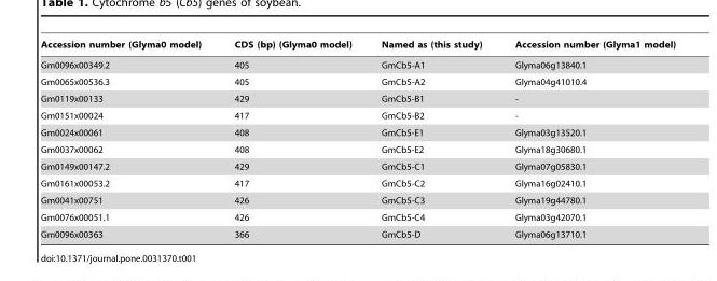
<table><thead><tr><td>Accession number (Glyma0 model)</td><td>CDS (bp) (Glyma0 model)</td><td>Named as (this study)</td><td>Accession number (Glyma1 model)</td></tr></thead><tbody><tr><td>Gm0096x00349.2</td><td>405</td><td>GmCb5-A1</td><td>Glyma06g13840.1</td></tr><tr><td>Gm0065x00536.3</td><td>405</td><td>GmCb5-A2</td><td>Glyma04g41010.4</td></tr><tr><td>Gm0119x00133</td><td>429</td><td>GmCb5-B1</td><td>-</td></tr><tr><td>Gm0151x00024</td><td>417</td><td>GmCb5-B2</td><td>-</td></tr><tr><td>Gm0024x00061</td><td>408</td><td>GmCb5-E1</td><td>Glyma03g13520.1</td></tr><tr><td>Gm0037x00062</td><td>408</td><td>GmCb5-E2</td><td>Glyma18g30680.1</td></tr><tr><td>Gm0149x00147.2</td><td>429</td><td>GmCb5-C1</td><td>Glyma07g05830.1</td></tr><tr><td>Gm0161x00053.2</td><td>417</td><td>GmCb5-C2</td><td>Glyma16g02410.1</td></tr><tr><td>Gm0041x00751</td><td>426</td><td>GmCb5-C3</td><td>Glyma19g44780.1</td></tr><tr><td>Gm0076x00051.1</td><td>426</td><td>GmCb5-C4</td><td>Glyma03g42070.1</td></tr><tr><td>Gm0096x00363</td><td>366</td><td>GmCb5-D</td><td>Glyma06g13710.1</td></tr></tbody></table>